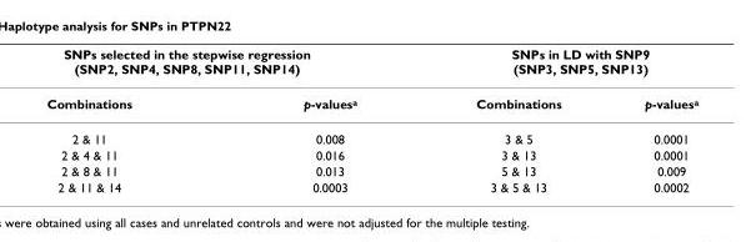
<table><thead><tr><td colspan="2">SNPs selected in the stepwise regression (SNP2, SNP4, SNP8, SNP11, SNP14)</td><td colspan="2">SNPs in LD with SNP9 (SNP3, SNP5, SNP13)</td></tr><tr><td>Combinations</td><td>p-values<sup>a</sup></td><td>Combinations</td><td>p-values<sup>a</sup></td></tr></thead><tbody><tr><td>2 &amp; 11</td><td>0.008</td><td>3 &amp; 5</td><td>0.0001</td></tr><tr><td>2 &amp; 4 &amp; 11</td><td>0.016</td><td>3 &amp; 13</td><td>0.0001</td></tr><tr><td>2 &amp; 8 &amp; 11</td><td>0.013</td><td>5 &amp; 13</td><td>0.009</td></tr><tr><td>2 &amp; 11 &amp; 14</td><td>0.0003</td><td>3 &amp; 5 &amp; 13</td><td>0.0002</td></tr></tbody></table>